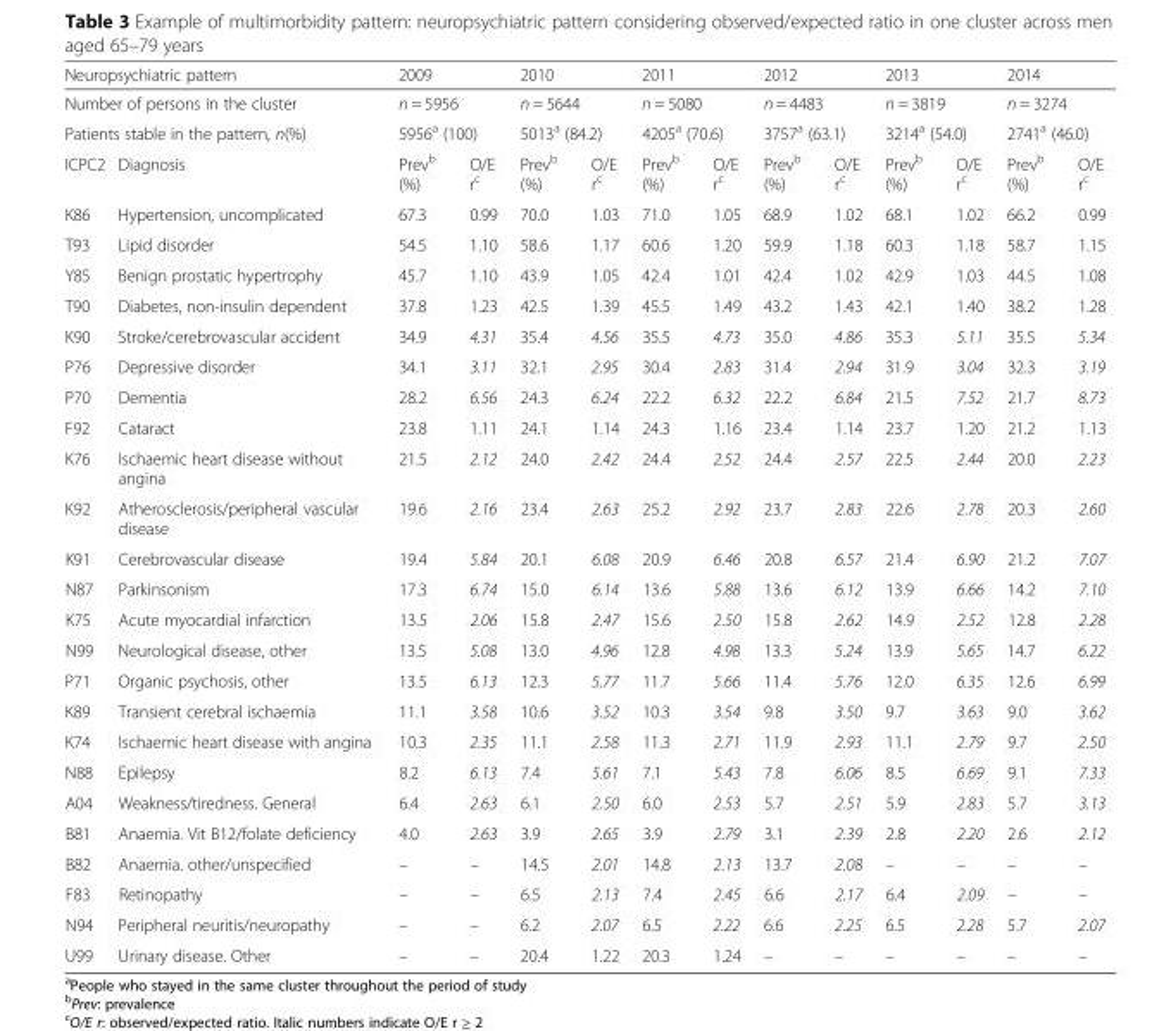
<table><thead><tr><td rowspan="3" colspan="2">Neuropsychiatric pattern Number of persons in the cluster Patients stable in the pattern, n(%)</td><td rowspan="3" colspan="2">2009 n = 5956 5956<sup>a</sup> (100)</td><td rowspan="3" colspan="2">2010 n = 5644 5013<sup>a</sup> (84.2)</td><td rowspan="3" colspan="2">2011 n = 5080 4205<sup>a</sup> (70.6)</td><td rowspan="3" colspan="2">2012 n = 4483 3757<sup>a</sup> (63.1)</td><td rowspan="3" colspan="2">2013 n = 3819 3214<sup>a</sup> (54.0)</td><td rowspan="3" colspan="2">2014 n = 3274 2741<sup>a</sup> (46.0)</td></tr><tr></tr><tr></tr><tr><td>ICPC2</td><td>Diagnosis</td><td>Prev<sup>b</sup> (%)</td><td>O/E r<sup>c</sup></td><td>Prev<sup>b</sup> (%)</td><td>O/E r<sup>c</sup></td><td>Prev<sup>b</sup> (%)</td><td>O/E r<sup>c</sup></td><td>Prev<sup>b</sup> (%)</td><td>O/E r<sup>c</sup></td><td>Prev<sup>b</sup> (%)</td><td>O/E r<sup>c</sup></td><td>Prev<sup>b</sup> (%)</td><td>O/E r<sup>c</sup></td></tr></thead><tbody><tr><td>K86</td><td>Hypertension, uncomplicated</td><td>67.3</td><td>0.99</td><td>70.0</td><td>1.03</td><td>71.0</td><td>1.05</td><td>68.9</td><td>1.02</td><td>68.1</td><td>1.02</td><td>66.2</td><td>0.99</td></tr><tr><td>T93</td><td>Lipid disorder</td><td>54.5</td><td>1.10</td><td>58.6</td><td>1.17</td><td>60.6</td><td>1.20</td><td>59.9</td><td>1.18</td><td>60.3</td><td>1.18</td><td>58.7</td><td>1.15</td></tr><tr><td>Y85</td><td>Benign prostatic hypertrophy</td><td>45.7</td><td>1.10</td><td>43.9</td><td>1.05</td><td>42.4</td><td>1.01</td><td>42.4</td><td>1.02</td><td>42.9</td><td>1.03</td><td>44.5</td><td>1.08</td></tr><tr><td>T90</td><td>Diabetes, non-insulin dependent</td><td>37.8</td><td>1.23</td><td>42.5</td><td>1.39</td><td>45.5</td><td>1.49</td><td>43.2</td><td>1.43</td><td>42.1</td><td>1.40</td><td>38.2</td><td>1.28</td></tr><tr><td>K90</td><td>Stroke/cerebrovascular accident</td><td>34.9</td><td>4.31</td><td>35.4</td><td>4.56</td><td>35.5</td><td>4.73</td><td>35.0</td><td>4.86</td><td>35.3</td><td>5.11</td><td>35.5</td><td>5.34</td></tr><tr><td>P76</td><td>Depressive disorder</td><td>34.1</td><td>3.11</td><td>32.1</td><td>2.95</td><td>30.4</td><td>2.83</td><td>31.4</td><td>2.94</td><td>31.9</td><td>3.04</td><td>32.3</td><td>3.19</td></tr><tr><td>P70</td><td>Dementia</td><td>28.2</td><td>6.56</td><td>24.3</td><td>6.24</td><td>22.2</td><td>6.32</td><td>22.2</td><td>6.84</td><td>21.5</td><td>7.52</td><td>21.7</td><td>8.73</td></tr><tr><td>F92</td><td>Cataract</td><td>23.8</td><td>1.11</td><td>24.1</td><td>1.14</td><td>24.3</td><td>1.16</td><td>23.4</td><td>1.14</td><td>23.7</td><td>1.20</td><td>21.2</td><td>1.13</td></tr><tr><td>K76</td><td>Ischaemic heart disease without angina</td><td>21.5</td><td>2.12</td><td>24.0</td><td>2.42</td><td>24.4</td><td>2.52</td><td>24.4</td><td>2.57</td><td>22.5</td><td>2.44</td><td>20.0</td><td>2.23</td></tr><tr><td>K92</td><td>Atherosclerosis/peripheral vascular disease</td><td>19.6</td><td>2.16</td><td>23.4</td><td>2.63</td><td>25.2</td><td>2.92</td><td>23.7</td><td>2.83</td><td>22.6</td><td>2.78</td><td>20.3</td><td>2.60</td></tr><tr><td>K91</td><td>Cerebrovascular disease</td><td>19.4</td><td>5.84</td><td>20.1</td><td>6.08</td><td>20.9</td><td>6.46</td><td>20.8</td><td>6.57</td><td>21.4</td><td>6.90</td><td>21.2</td><td>7.07</td></tr><tr><td>N87</td><td>Parkinsonism</td><td>17.3</td><td>6.74</td><td>15.0</td><td>6.14</td><td>13.6</td><td>5.88</td><td>13.6</td><td>6.12</td><td>13.9</td><td>6.66</td><td>14.2</td><td>7.10</td></tr><tr><td>K75</td><td>Acute myocardial infarction</td><td>13.5</td><td>2.06</td><td>15.8</td><td>2.47</td><td>15.6</td><td>2.50</td><td>15.8</td><td>2.62</td><td>14.9</td><td>2.52</td><td>12.8</td><td>2.28</td></tr><tr><td>N99</td><td>Neurological disease, other</td><td>13.5</td><td>5.08</td><td>13.0</td><td>4.96</td><td>12.8</td><td>4.98</td><td>13.3</td><td>5.24</td><td>13.9</td><td>5.65</td><td>14.7</td><td>6.22</td></tr><tr><td>P71</td><td>Organic psychosis, other</td><td>13.5</td><td>6.13</td><td>12.3</td><td>5.77</td><td>11.7</td><td>5.66</td><td>11.4</td><td>5.76</td><td>12.0</td><td>6.35</td><td>12.6</td><td>6.99</td></tr><tr><td>K89</td><td>Transient cerebral ischaemia</td><td>11.1</td><td>3.58</td><td>10.6</td><td>3.52</td><td>10.3</td><td>3.54</td><td>9.8</td><td>3.50</td><td>9.7</td><td>3.63</td><td>9.0</td><td>3.62</td></tr><tr><td>K74</td><td>Ischaemic heart disease with angina</td><td>10.3</td><td>2.35</td><td>11.1</td><td>2.58</td><td>11.3</td><td>2.71</td><td>11.9</td><td>2.93</td><td>11.1</td><td>2.79</td><td>9.7</td><td>2.50</td></tr><tr><td>N88</td><td>Epilepsy</td><td>8.2</td><td>6.13</td><td>7.4</td><td>5.61</td><td>7.1</td><td>5.43</td><td>7.8</td><td>6.06</td><td>8.5</td><td>6.69</td><td>9.1</td><td>7.33</td></tr><tr><td>A04</td><td>Weakness/tiredness. General</td><td>6.4</td><td>2.63</td><td>6.1</td><td>2.50</td><td>6.0</td><td>2.53</td><td>5.7</td><td>2.51</td><td>5.9</td><td>2.83</td><td>5.7</td><td>3.13</td></tr><tr><td>B81</td><td>Anaemia. Vit B12/folate deficiency</td><td>4.0</td><td>2.63</td><td>3.9</td><td>2.65</td><td>3.9</td><td>2.79</td><td>3.1</td><td>2.39</td><td>2.8</td><td>2.20</td><td>2.6</td><td>2.12</td></tr><tr><td>B82</td><td>Anaemia. other/unspecified</td><td>–</td><td>–</td><td>14.5</td><td>2.01</td><td>14.8</td><td>2.13</td><td>13.7</td><td>2.08</td><td>–</td><td>–</td><td>–</td><td>–</td></tr><tr><td>F83</td><td>Retinopathy</td><td>–</td><td>–</td><td>6.5</td><td>2.13</td><td>7.4</td><td>2.45</td><td>6.6</td><td>2.17</td><td>6.4</td><td>2.09</td><td>–</td><td>–</td></tr><tr><td>N94</td><td>Peripheral neuritis/neuropathy</td><td>–</td><td>–</td><td>6.2</td><td>2.07</td><td>6.5</td><td>2.22</td><td>6.6</td><td>2.25</td><td>6.5</td><td>2.28</td><td>5.7</td><td>2.07</td></tr><tr><td>U99</td><td>Urinary disease. Other</td><td>–</td><td>–</td><td>20.4</td><td>1.22</td><td>20.3</td><td>1.24</td><td>–</td><td>–</td><td>–</td><td>–</td><td>–</td><td>–</td></tr></tbody></table>